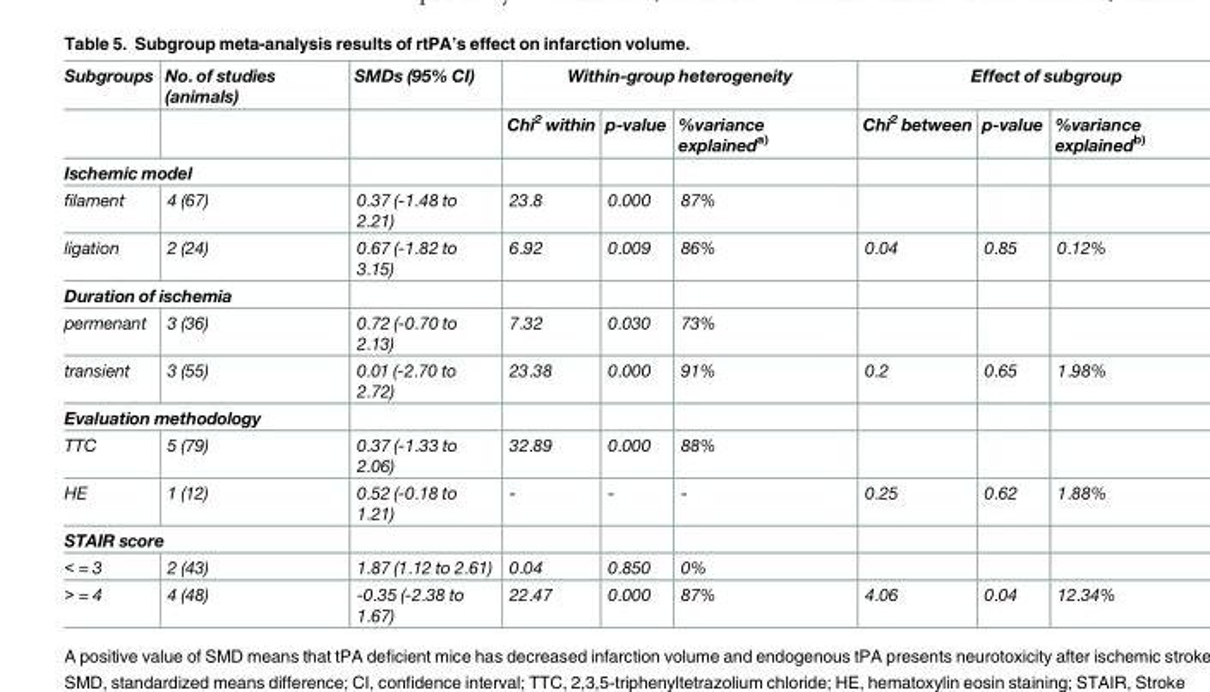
<table><thead><tr><td rowspan="2">Subgroups</td><td rowspan="2">No. of studies (animals)</td><td rowspan="2">SMDs (95% CI)</td><td colspan="3">Within-group heterogeneity</td><td colspan="3">Effect of subgroup</td></tr><tr><td>Chi<sup>2</sup> within</td><td>p-value</td><td>%variance explained<sup>a)</sup></td><td>Chi<sup>2</sup> between</td><td>p-value</td><td>%variance explained<sup>b)</sup></td></tr></thead><tbody><tr><td colspan="9">Ischemic model</td></tr><tr><td>filament</td><td>4 (67)</td><td>0.37 (-1.48 to 2.21)</td><td>23.8</td><td>0.000</td><td>87%</td><td></td><td></td><td></td></tr><tr><td>ligation</td><td>2 (24)</td><td>0.67 (-1.82 to 3.15)</td><td>6.92</td><td>0.009</td><td>86%</td><td>0.04</td><td>0.85</td><td>0.12%</td></tr><tr><td colspan="9">Duration of ischemia</td></tr><tr><td>permenant</td><td>3 (36)</td><td>0.72 (-0.70 to 2.13)</td><td>7.32</td><td>0.030</td><td>73%</td><td></td><td></td><td></td></tr><tr><td>transient</td><td>3 (55)</td><td>0.01 (-2.70 to 2.72)</td><td>23.38</td><td>0.000</td><td>91%</td><td>0.2</td><td>0.65</td><td>1.98%</td></tr><tr><td colspan="9">Evaluation methodology</td></tr><tr><td>TTC</td><td>5 (79)</td><td>0.37 (-1.33 to 2.06)</td><td>32.89</td><td>0.000</td><td>88%</td><td></td><td></td><td></td></tr><tr><td>HE</td><td>1 (12)</td><td>0.52 (-0.18 to 1.21)</td><td>-</td><td>-</td><td>-</td><td>0.25</td><td>0.62</td><td>1.88%</td></tr><tr><td colspan="9">STAIR score</td></tr><tr><td>&lt; = 3</td><td>2 (43)</td><td>1.87 (1.12 to 2.61)</td><td>0.04</td><td>0.850</td><td>0%</td><td></td><td></td><td></td></tr><tr><td>&gt; = 4</td><td>4 (48)</td><td>-0.35 (-2.38 to 1.67)</td><td>22.47</td><td>0.000</td><td>87%</td><td>4.06</td><td>0.04</td><td>12.34%</td></tr></tbody></table>